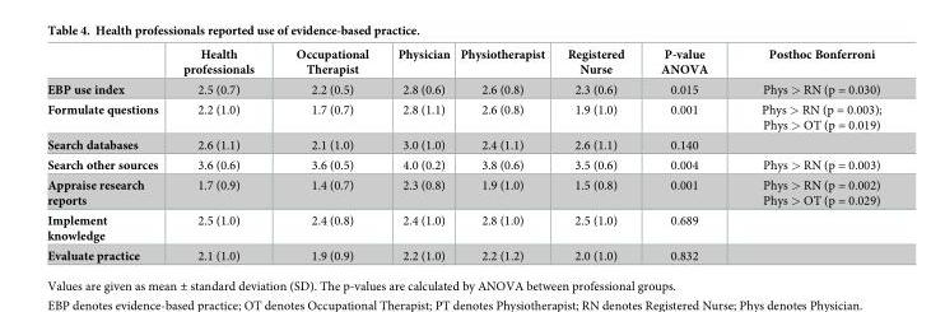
<table><thead><tr><td></td><td>Health professionals</td><td>Occupational Therapist</td><td>Physician</td><td>Physiotherapist</td><td>Registered Nurse</td><td>P-value ANOVA</td><td>Posthoc Bonferroni</td></tr></thead><tbody><tr><td>EBP use index</td><td>2.5 (0.7)</td><td>2.2 (0.5)</td><td>2.8 (0.6)</td><td>2.6 (0.8)</td><td>2.3 (0.6)</td><td>0.015</td><td>Phys &gt; RN (p = 0.030)</td></tr><tr><td>Formulate questions</td><td>2.2 (1.0)</td><td>1.7 (0.7)</td><td>2.8 (1.1)</td><td>2.6 (0.8)</td><td>1.9 (1.0)</td><td>0.001</td><td>Phys &gt; RN (p = 0.003); Phys &gt; OT (p = 0.019)</td></tr><tr><td>Search databases</td><td>2.6 (1.1)</td><td>2.1 (1.0)</td><td>3.0 (1.0)</td><td>2.4 (1.1)</td><td>2.6 (1.1)</td><td>0.140</td><td></td></tr><tr><td>Search other sources</td><td>3.6 (0.6)</td><td>3.6 (0.5)</td><td>4.0 (0.2)</td><td>3.8 (0.6)</td><td>3.5 (0.6)</td><td>0.004</td><td>Phys &gt; RN (p = 0.003)</td></tr><tr><td>Appraise research reports</td><td>1.7 (0.9)</td><td>1.4 (0.7)</td><td>2.3 (0.8)</td><td>1.9 (1.0)</td><td>1.5 (0.8)</td><td>0.001</td><td>Phys &gt; RN (p = 0.002) Phys &gt; OT (p = 0.029)</td></tr><tr><td>Implement knowledge</td><td>2.5 (1.0)</td><td>2.4 (0.8)</td><td>2.4 (1.0)</td><td>2.8 (1.0)</td><td>2.5 (1.0)</td><td>0.689</td><td></td></tr><tr><td>Evaluate practice</td><td>2.1 (1.0)</td><td>1.9 (0.9)</td><td>2.2 (1.0)</td><td>2.2 (1.2)</td><td>2.0 (1.0)</td><td>0.832</td><td></td></tr></tbody></table>